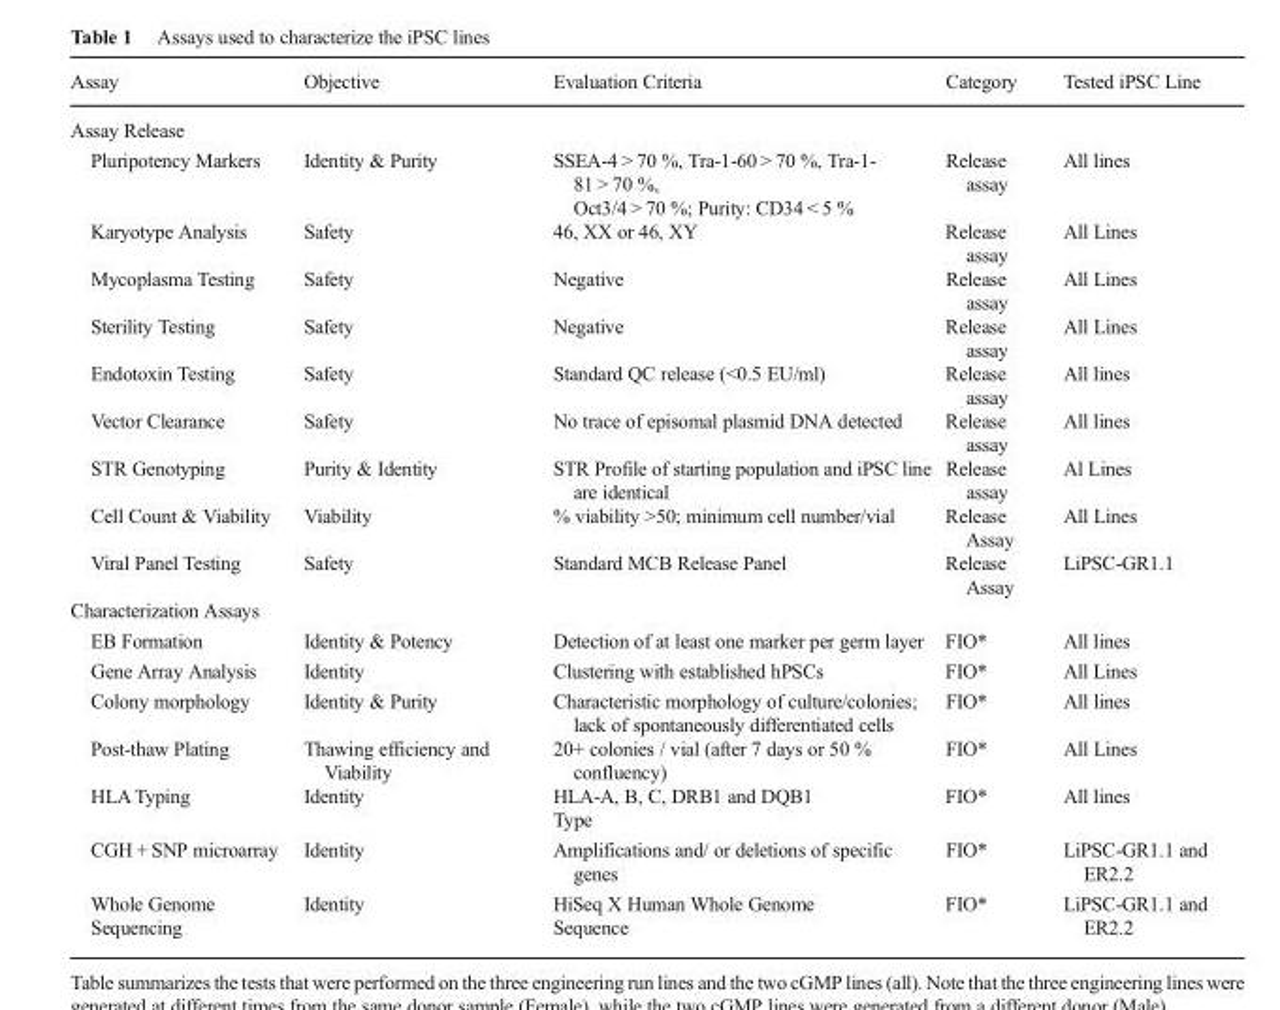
<table><thead><tr><td>Assay</td><td>Objective</td><td>Evaluation Criteria</td><td>Category</td><td>Tested iPSC Line</td></tr></thead><tbody><tr><td colspan="5">Assay Release</td></tr><tr><td>Pluripotency Markers</td><td>Identity &amp; Purity</td><td>SSEA-4 &gt; 70 %, Tra-1-60 &gt; 70 %, Tra-1- 81 &gt; 70 %, Oct3/4 &gt; 70 %; Purity: CD34 &lt; 5 %</td><td>Release assay</td><td>All lines</td></tr><tr><td>Karyotype Analysis</td><td>Safety</td><td>46, XX or 46, XY</td><td>Release assay</td><td>All Lines</td></tr><tr><td>Mycoplasma Testing</td><td>Safety</td><td>Negative</td><td>Release assay</td><td>All Lines</td></tr><tr><td>Sterility Testing</td><td>Safety</td><td>Negative</td><td>Release assay</td><td>All Lines</td></tr><tr><td>Endotoxin Testing</td><td>Safety</td><td>Standard QC release (&lt;0.5 EU/ml)</td><td>Release assay</td><td>All lines</td></tr><tr><td>Vector Clearance</td><td>Safety</td><td>No trace of episomal plasmid DNA detected</td><td>Release assay</td><td>All lines</td></tr><tr><td>STR Genotyping</td><td>Purity &amp; Identity</td><td>STR Profile of starting population and iPSC line are identical</td><td>Release assay</td><td>Al Lines</td></tr><tr><td>Cell Count &amp; Viability</td><td>Viability</td><td>% viability &gt;50; minimum cell number/vial</td><td>Release Assay</td><td>All Lines</td></tr><tr><td>Viral Panel Testing</td><td>Safety</td><td>Standard MCB Release Panel</td><td>Release Assay</td><td>LiPSC-GR1.1</td></tr><tr><td colspan="5">Characterization Assays</td></tr><tr><td>EB Formation</td><td>Identity &amp; Potency</td><td>Detection of at least one marker per germ layer</td><td>FIO*</td><td>All lines</td></tr><tr><td>Gene Array Analysis</td><td>Identity</td><td>Clustering with established hPSCs</td><td>FIO*</td><td>All Lines</td></tr><tr><td>Colony morphology</td><td>Identity &amp; Purity</td><td>Characteristic morphology of culture/colonies; lack of spontaneously differentiated cells</td><td>FIO*</td><td>All lines</td></tr><tr><td>Post-thaw Plating</td><td>Thawing efficiency and Viability</td><td>20+ colonies / vial (after 7 days or 50 % confluency)</td><td>FIO*</td><td>All Lines</td></tr><tr><td rowspan="2">HLA Typing</td><td rowspan="2">Identity</td><td>HLA-A, B, C, DRB1 and DQB1</td><td rowspan="2">FIO*</td><td rowspan="2">All lines</td></tr><tr><td>Type</td></tr><tr><td>CGH + SNP microarray</td><td>Identity</td><td>Amplifications and/ or deletions of specific genes</td><td>FIO*</td><td>LiPSC-GR1.1 and ER2.2</td></tr><tr><td rowspan="2">Whole Genome Sequencing</td><td rowspan="2">Identity</td><td>HiSeq X Human Whole Genome</td><td rowspan="2">FIO*</td><td rowspan="2">LiPSC-GR1.1 and ER2.2</td></tr><tr><td>Sequence</td></tr></tbody></table>